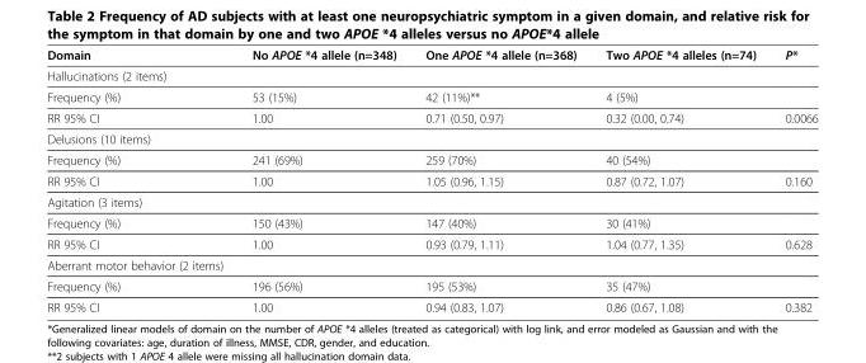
<table><thead><tr><td>Domain</td><td>No APOΕ *4 allele (n=348)</td><td>One APOΕ *4 allele (n=368)</td><td>Two APOΕ *4 alleles (n=74)</td><td>P*</td></tr></thead><tbody><tr><td colspan="5">Hallucinations (2 items)</td></tr><tr><td>Frequency (%)</td><td>53 (15%)</td><td>42 (11%)**</td><td>4 (5%)</td><td></td></tr><tr><td>RR 95% CI</td><td>1.00</td><td>0.71 (0.50, 0.97)</td><td>0.32 (0.00, 0.74)</td><td>0.0066</td></tr><tr><td colspan="5">Delusions (10 items)</td></tr><tr><td>Frequency (%)</td><td>241 (69%)</td><td>259 (70%)</td><td>40 (54%)</td><td></td></tr><tr><td>RR 95% CI</td><td>1.00</td><td>1.05 (0.96, 1.15)</td><td>0.87 (0.72, 1.07)</td><td>0.160</td></tr><tr><td colspan="5">Agitation (3 items)</td></tr><tr><td>Frequency (%)</td><td>150 (43%)</td><td>147 (40%)</td><td>30 (41%)</td><td></td></tr><tr><td>RR 95% CI</td><td>1.00</td><td>0.93 (0.79, 1.11)</td><td>1.04 (0.77, 1.35)</td><td>0.628</td></tr><tr><td colspan="5">Aberrant motor behavior (2 items)</td></tr><tr><td>Frequency (%)</td><td>196 (56%)</td><td>195 (53%)</td><td>35 (47%)</td><td></td></tr><tr><td>RR 95% CI</td><td>1.00</td><td>0.94 (0.83, 1.07)</td><td>0.86 (0.67, 1.08)</td><td>0.382</td></tr></tbody></table>